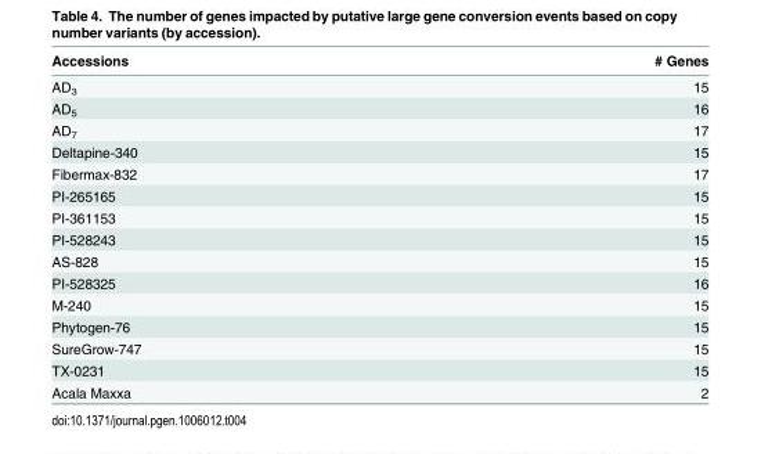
<table><thead><tr><td>Accessions</td><td># Genes</td></tr></thead><tbody><tr><td>AD<sub>3</sub></td><td>15</td></tr><tr><td>AD<sub>5</sub></td><td>16</td></tr><tr><td>AD<sub>7</sub></td><td>17</td></tr><tr><td>Deltapine-340</td><td>15</td></tr><tr><td>Fibermax-832</td><td>17</td></tr><tr><td>PI-265165</td><td>15</td></tr><tr><td>PI-361153</td><td>15</td></tr><tr><td>PI-528243</td><td>15</td></tr><tr><td>AS-828</td><td>15</td></tr><tr><td>PI-528325</td><td>16</td></tr><tr><td>M-240</td><td>15</td></tr><tr><td>Phytogen-76</td><td>15</td></tr><tr><td>SureGrow-747</td><td>15</td></tr><tr><td>TX-0231</td><td>15</td></tr><tr><td>Acala Maxxa</td><td>2</td></tr></tbody></table>